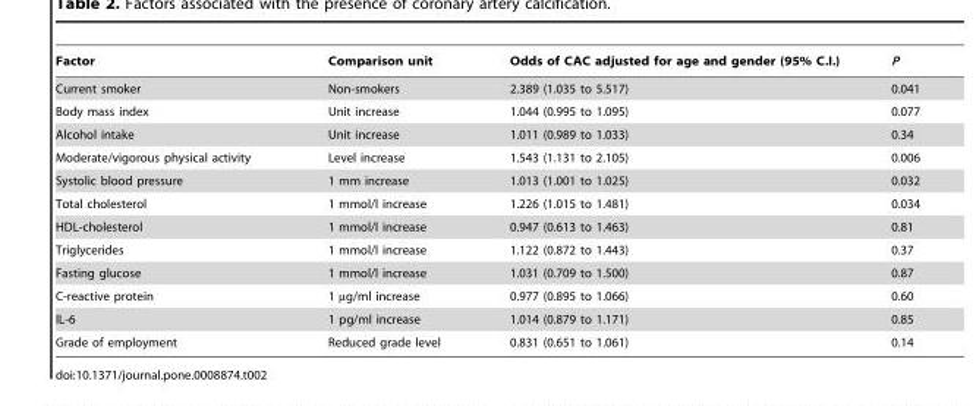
<table><thead><tr><td>Factor</td><td>Comparison unit</td><td>Odds of CAC adjusted for age and gender (95% C.I.)</td><td>P</td></tr></thead><tbody><tr><td>Current smoker</td><td>Non-smokers</td><td>2.389 (1.035 to 5.517)</td><td>0.041</td></tr><tr><td>Body mass index</td><td>Unit increase</td><td>1.044 (0.995 to 1.095)</td><td>0.077</td></tr><tr><td>Alcohol intake</td><td>Unit increase</td><td>1.011 (0.989 to 1.033)</td><td>0.34</td></tr><tr><td>Moderate/vigorous physical activity</td><td>Level increase</td><td>1.543 (1.131 to 2.105)</td><td>0.006</td></tr><tr><td>Systolic blood pressure</td><td>1 mm increase</td><td>1.013 (1.001 to 1.025)</td><td>0.032</td></tr><tr><td>Total cholesterol</td><td>1 mmol/l increase</td><td>1.226 (1.015 to 1.481)</td><td>0.034</td></tr><tr><td>HDL-cholesterol</td><td>1 mmol/l increase</td><td>0.947 (0.613 to 1.463)</td><td>0.81</td></tr><tr><td>Triglycerides</td><td>1 mmol/l increase</td><td>1.122 (0.872 to 1.443)</td><td>0.37</td></tr><tr><td>Fasting glucose</td><td>1 mmol/l increase</td><td>1.031 (0.709 to 1.500)</td><td>0.87</td></tr><tr><td>C-reactive protein</td><td>1 µg/ml increase</td><td>0.977 (0.895 to 1.066)</td><td>0.60</td></tr><tr><td>IL-6</td><td>1 pg/ml increase</td><td>1.014 (0.879 to 1.171)</td><td>0.85</td></tr><tr><td>Grade of employment</td><td>Reduced grade level</td><td>0.831 (0.651 to 1.061)</td><td>0.14</td></tr></tbody></table>